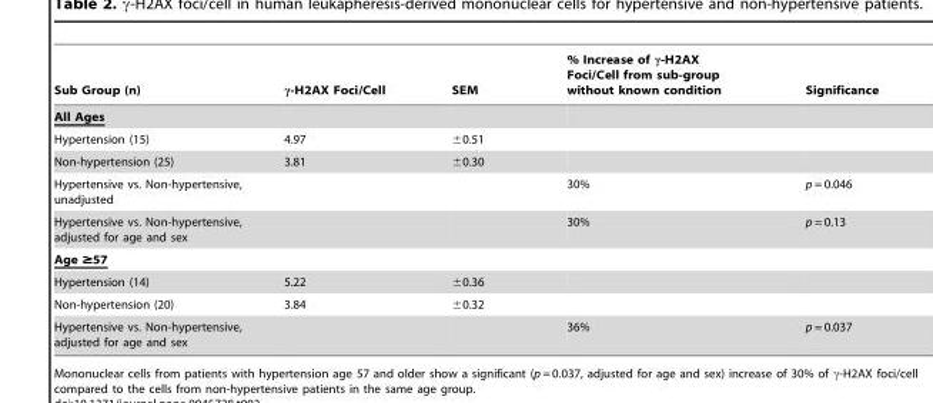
<table><thead><tr><td>Sub Group (n)</td><td>γ-H2AX Foci/Cell</td><td>SEM</td><td>% Increase of γ-H2AX Foci/Cell from sub-group without known condition</td><td>Significance</td></tr></thead><tbody><tr><td colspan="5">All Ages</td></tr><tr><td>Hypertension (15)</td><td>4.97</td><td>±0.51</td><td></td><td></td></tr><tr><td>Non-hypertension (25)</td><td>3.81</td><td>±0.30</td><td></td><td></td></tr><tr><td>Hypertensive vs. Non-hypertensive, unadjusted</td><td></td><td></td><td>30%</td><td>p = 0.046</td></tr><tr><td>Hypertensive vs. Non-hypertensive, adjusted for age and sex</td><td></td><td></td><td>30%</td><td>p = 0.13</td></tr><tr><td colspan="5">Age ≥57</td></tr><tr><td>Hypertension (14)</td><td>5.22</td><td>±0.36</td><td></td><td></td></tr><tr><td>Non-hypertension (20)</td><td>3.84</td><td>±0.32</td><td></td><td></td></tr><tr><td>Hypertensive vs. Non-hypertensive, adjusted for age and sex</td><td></td><td></td><td>36%</td><td>p = 0.037</td></tr></tbody></table>